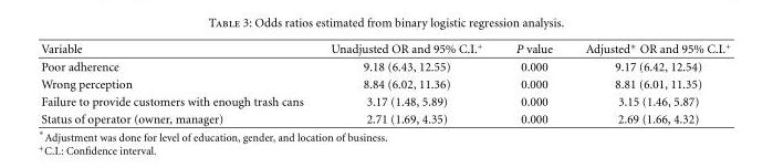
<table><thead><tr><td>Variable</td><td>Unadjusted OR and 95% C.I.<sup>+</sup></td><td>P value</td><td>Adjusted∗ OR and 95% C.I.+</td></tr></thead><tbody><tr><td>Poor adherence</td><td>9.18 (6.43, 12.55)</td><td>0.000</td><td>9.17 (6.42, 12.54)</td></tr><tr><td>Wrong perception</td><td>8.84 (6.02, 11.36)</td><td>0.000</td><td>8.81 (6.01, 11.35)</td></tr><tr><td>Failure to provide customers with enough trash cans</td><td>3.17 (1.48, 5.89)</td><td>0.000</td><td>3.15 (1.46, 5.87)</td></tr><tr><td>Status of operator (owner, manager)</td><td>2.71 (1.69, 4.35)</td><td>0.000</td><td>2.69 (1.66, 4.32)</td></tr></tbody></table>